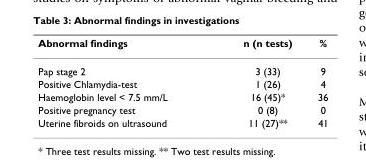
<table><thead><tr><td>Abnormal findings</td><td>n (n tests)</td><td>%</td></tr></thead><tbody><tr><td>Pap stage 2</td><td>3 (33)</td><td>9</td></tr><tr><td>Positive Chlamydia-test</td><td>1 (26)</td><td>4</td></tr><tr><td>Haemoglobin level &lt; 7.5 mm/L</td><td>16 (45)*</td><td>36</td></tr><tr><td>Positive pregnancy test</td><td>0 (8)</td><td>0</td></tr><tr><td>Uterine fibroids on ultrasound</td><td>11 (27)**</td><td>41</td></tr></tbody></table>